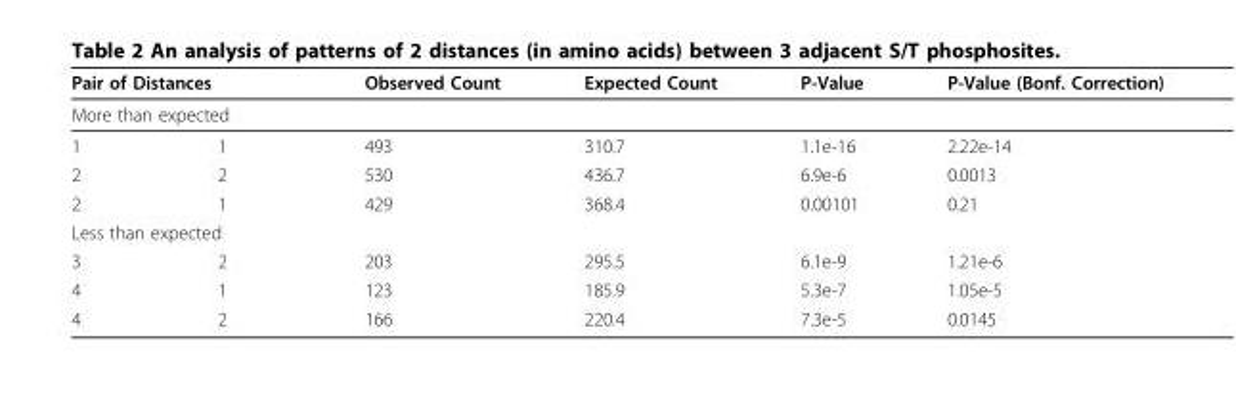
<table><thead><tr><td colspan="2">Pair of Distances</td><td>Observed Count</td><td>Expected Count</td><td>P-Value</td><td>P-Value (Bonf. Correction)</td></tr><tr><td colspan="6">More than expected</td></tr><tr><td>1</td><td>1</td><td>493</td><td>310.7</td><td>1.1e-16</td><td>2.22e-14</td></tr></thead><tbody><tr><td>2</td><td>2</td><td>530</td><td>436.7</td><td>6.9e-6</td><td>0.0013</td></tr><tr><td>2</td><td>1</td><td>429</td><td>368.4</td><td>0.00101</td><td>0.21</td></tr><tr><td colspan="6">Less than expected</td></tr><tr><td>3</td><td>2</td><td>203</td><td>295.5</td><td>6.1e-9</td><td>1.21e-6</td></tr><tr><td>4</td><td>1</td><td>123</td><td>185.9</td><td>5.3e-7</td><td>1.05e-5</td></tr><tr><td>4</td><td>2</td><td>166</td><td>220.4</td><td>7.3e-5</td><td>0.0145</td></tr></tbody></table>